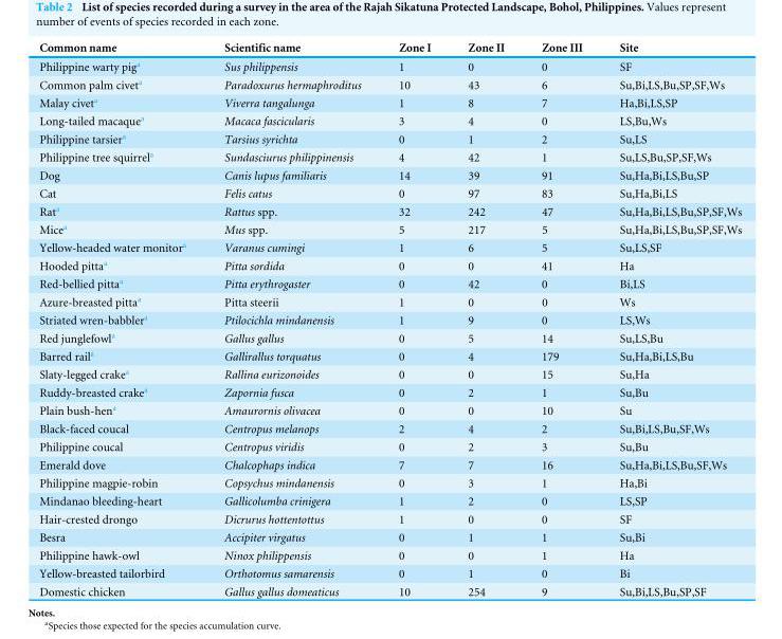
<table><thead><tr><td>Common name</td><td>Scientific name</td><td>Zone I</td><td>Zone II</td><td>Zone III</td><td>Site</td></tr></thead><tbody><tr><td>Philippine warty pig<sup>a</sup></td><td>Sus philippensis</td><td>1</td><td>0</td><td>0</td><td>SF</td></tr><tr><td>Common palm civet<sup>a</sup></td><td>Paradoxurus hermaphroditus</td><td>10</td><td>43</td><td>6</td><td>Su,Bi,LS,Bu,SP,SF,Ws</td></tr><tr><td>Malay civet<sup>a</sup></td><td>Viverra tangalunga</td><td>1</td><td>8</td><td>7</td><td>Ha,Bi,LS,SP</td></tr><tr><td>Long-tailed macaque<sup>a</sup></td><td>Macaca fascicularis</td><td>3</td><td>4</td><td>0</td><td>LS,Bu,Ws</td></tr><tr><td>Philippine tarsier<sup>a</sup></td><td>Tarsius syrichta</td><td>0</td><td>1</td><td>2</td><td>Su,LS</td></tr><tr><td>Philippine tree squirrel<sup>a</sup></td><td>Sundasciurus philippinensis</td><td>4</td><td>42</td><td>1</td><td>Su,LS,Bu,SP,SF,Ws</td></tr><tr><td>Dog</td><td>Canis lupus familiaris</td><td>14</td><td>39</td><td>91</td><td>Su,Ha,Bi,LS,Bu,SP</td></tr><tr><td>Cat</td><td>Felis catus</td><td>0</td><td>97</td><td>83</td><td>Su,Ha,Bi,LS</td></tr><tr><td>Rat<sup>a</sup></td><td>Rattus spp.</td><td>32</td><td>242</td><td>47</td><td>Su,Ha,Bi,LS,Bu,SP,SF,Ws</td></tr><tr><td>Mice<sup>a</sup></td><td>Mus spp.</td><td>5</td><td>217</td><td>5</td><td>Su,Ha,Bi,LS,Bu,SP,SF,Ws</td></tr><tr><td>Yellow-headed water monitor<sup>a</sup></td><td>Varanus cumingi</td><td>1</td><td>6</td><td>5</td><td>Su,LS,SF</td></tr><tr><td>Hooded pitta<sup>a</sup></td><td>Pitta sordida</td><td>0</td><td>0</td><td>41</td><td>Ha</td></tr><tr><td>Red-bellied pitta<sup>a</sup></td><td>Pitta erythrogaster</td><td>0</td><td>42</td><td>0</td><td>Bi,LS</td></tr><tr><td>Azure-breasted pitta<sup>a</sup></td><td>Pitta steerii</td><td>1</td><td>0</td><td>0</td><td>Ws</td></tr><tr><td>Striated wren-babbler<sup>a</sup></td><td>Ptilocichla mindanensis</td><td>1</td><td>9</td><td>0</td><td>LS,Ws</td></tr><tr><td>Red junglefowl<sup>a</sup></td><td>Gallus gallus</td><td>0</td><td>5</td><td>14</td><td>Su,LS,Bu</td></tr><tr><td>Barred rail<sup>a</sup></td><td>Gallirallus torquatus</td><td>0</td><td>4</td><td>179</td><td>Su,Ha,Bi,LS,Bu</td></tr><tr><td>Slaty-legged crake<sup>a</sup></td><td>Rallina eurizonoides</td><td>0</td><td>0</td><td>15</td><td>Su,Ha</td></tr><tr><td>Ruddy-breasted crake<sup>a</sup></td><td>Zapornia fusca</td><td>0</td><td>2</td><td>1</td><td>Su,Bu</td></tr><tr><td>Plain bush-hen<sup>a</sup></td><td>Amaurornis olivacea</td><td>0</td><td>0</td><td>10</td><td>Su</td></tr><tr><td>Black-faced coucal</td><td>Centropus melanops</td><td>2</td><td>4</td><td>2</td><td>Su,Bi,LS,Bu,SF,Ws</td></tr><tr><td>Philippine coucal</td><td>Centropus viridis</td><td>0</td><td>2</td><td>3</td><td>Su,Bu</td></tr><tr><td>Emerald dove</td><td>Chalcophaps indica</td><td>7</td><td>7</td><td>16</td><td>Su,Ha,Bi,LS,Bu,SF,Ws</td></tr><tr><td>Philippine magpie-robin</td><td>Copsychus mindanensis</td><td>0</td><td>3</td><td>1</td><td>Ha,Bi</td></tr><tr><td>Mindanao bleeding-heart</td><td>Gallicolumba crinigera</td><td>1</td><td>2</td><td>0</td><td>LS,SP</td></tr><tr><td>Hair-crested drongo</td><td>Dicrurus hottentottus</td><td>1</td><td>0</td><td>0</td><td>SF</td></tr><tr><td>Besra</td><td>Accipiter virgatus</td><td>0</td><td>1</td><td>1</td><td>Su,Bi</td></tr><tr><td>Philippine hawk-owl</td><td>Ninox philippensis</td><td>0</td><td>0</td><td>1</td><td>Ha</td></tr><tr><td>Yellow-breasted tailorbird</td><td>Orthotomus samarensis</td><td>0</td><td>1</td><td>0</td><td>Bi</td></tr><tr><td>Domestic chicken</td><td>Gallus gallus domeaticus</td><td>10</td><td>254</td><td>9</td><td>Su,Bi,LS,Bu,SP,SF</td></tr></tbody></table>